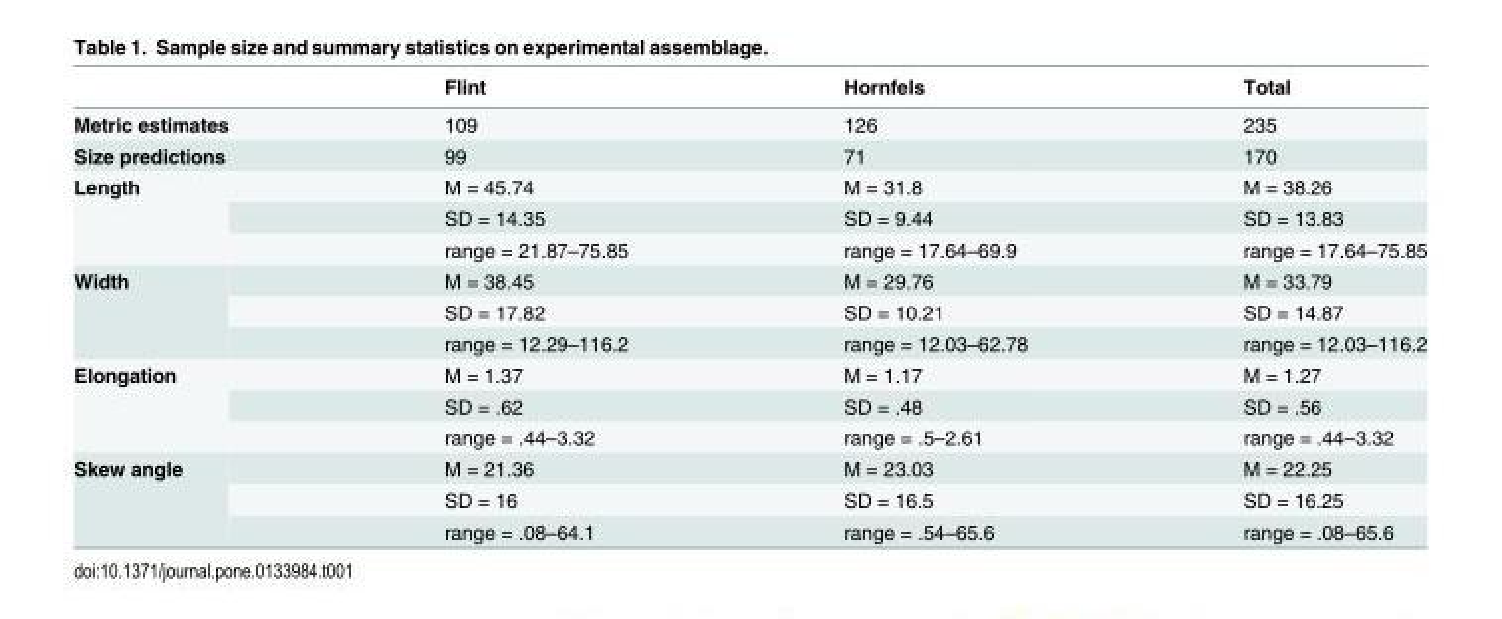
<table><thead><tr><td></td><td>Flint</td><td>Hornfels</td><td>Total</td></tr></thead><tbody><tr><td>Metric estimates</td><td>109</td><td>126</td><td>235</td></tr><tr><td>Size predictions</td><td>99</td><td>71</td><td>170</td></tr><tr><td rowspan="3">Length</td><td>M = 45.74</td><td>M = 31.8</td><td>M = 38.26</td></tr><tr><td>SD = 14.35</td><td>SD = 9.44</td><td>SD = 13.83</td></tr><tr><td>range = 21.87–75.85</td><td>range = 17.64–69.9</td><td>range = 17.64–75.85</td></tr><tr><td rowspan="3">Width</td><td>M = 38.45</td><td>M = 29.76</td><td>M = 33.79</td></tr><tr><td>SD = 17.82</td><td>SD = 10.21</td><td>SD = 14.87</td></tr><tr><td>range = 12.29–116.2</td><td>range = 12.03–62.78</td><td>range = 12.03–116.2</td></tr><tr><td rowspan="3">Elongation</td><td>M = 1.37</td><td>M = 1.17</td><td>M = 1.27</td></tr><tr><td>SD = .62</td><td>SD = .48</td><td>SD = .56</td></tr><tr><td>range = .44–3.32</td><td>range = .5–2.61</td><td>range = .44–3.32</td></tr><tr><td rowspan="3">Skew angle</td><td>M = 21.36</td><td>M = 23.03</td><td>M = 22.25</td></tr><tr><td>SD = 16</td><td>SD = 16.5</td><td>SD = 16.25</td></tr><tr><td>range = .08–64.1</td><td>range = .54–65.6</td><td>range = .08–65.6</td></tr></tbody></table>